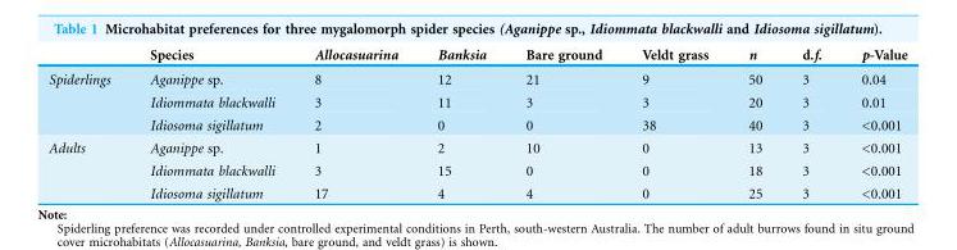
<table><thead><tr><td></td><td>Species</td><td>Allocasuarina</td><td>Banksia</td><td>Bare ground</td><td>Veldt grass</td><td>n</td><td>d.f.</td><td>p-Value</td></tr></thead><tbody><tr><td rowspan="3">Spiderlings</td><td>Aganippe sp.</td><td>8</td><td>12</td><td>21</td><td>9</td><td>50</td><td>3</td><td>0.04</td></tr><tr><td>Idiommata blackwalli</td><td>3</td><td>11</td><td>3</td><td>3</td><td>20</td><td>3</td><td>0.01</td></tr><tr><td>Idiosoma sigillatum</td><td>2</td><td>0</td><td>0</td><td>38</td><td>40</td><td>3</td><td>&lt;0.001</td></tr><tr><td rowspan="3">Adults</td><td>Aganippe sp.</td><td>1</td><td>2</td><td>10</td><td>0</td><td>13</td><td>3</td><td>&lt;0.001</td></tr><tr><td>Idiommata blackwalli</td><td>3</td><td>15</td><td>0</td><td>0</td><td>18</td><td>3</td><td>&lt;0.001</td></tr><tr><td>Idiosoma sigillatum</td><td>17</td><td>4</td><td>4</td><td>0</td><td>25</td><td>3</td><td>&lt;0.001</td></tr></tbody></table>